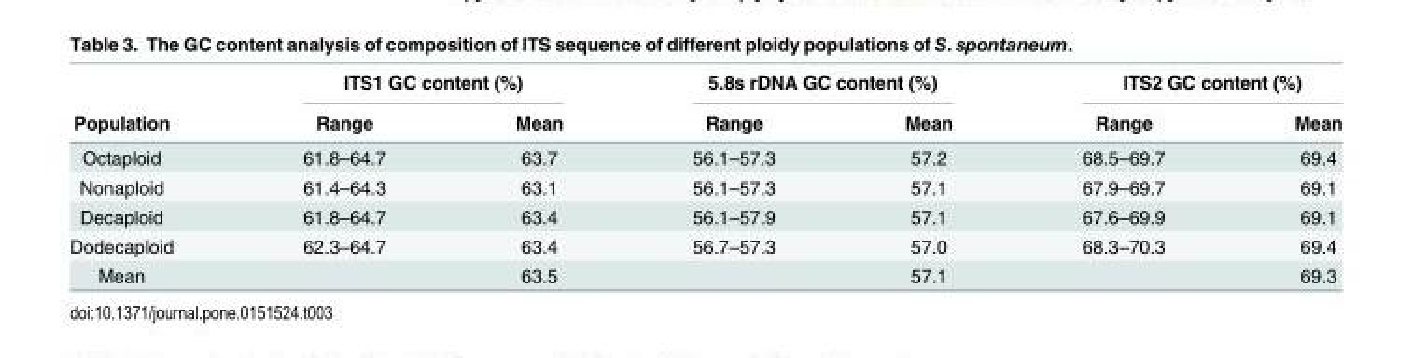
<table><thead><tr><td rowspan="2">Population</td><td colspan="2">ITS1 GC content (%)</td><td colspan="2">5.8s rDNA GC content (%)</td><td colspan="2">ITS2 GC content (%)</td></tr><tr><td>Range</td><td>Mean</td><td>Range</td><td>Mean</td><td>Range</td><td>Mean</td></tr></thead><tbody><tr><td>Octaploid</td><td>61.8–64.7</td><td>63.7</td><td>56.1–57.3</td><td>57.2</td><td>68.5–69.7</td><td>69.4</td></tr><tr><td>Nonaploid</td><td>61.4–64.3</td><td>63.1</td><td>56.1–57.3</td><td>57.1</td><td>67.9–69.7</td><td>69.1</td></tr><tr><td>Decaploid</td><td>61.8–64.7</td><td>63.4</td><td>56.1–57.9</td><td>57.1</td><td>67.6–69.9</td><td>69.1</td></tr><tr><td>Dodecaploid</td><td>62.3–64.7</td><td>63.4</td><td>56.7–57.3</td><td>57.0</td><td>68.3–70.3</td><td>69.4</td></tr><tr><td>Mean</td><td></td><td>63.5</td><td></td><td>57.1</td><td></td><td>69.3</td></tr></tbody></table>